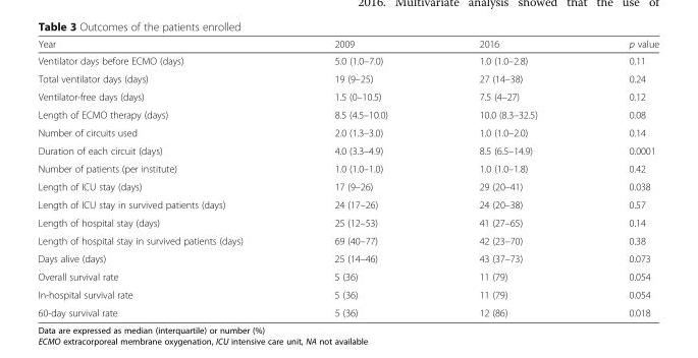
<table><thead><tr><td>Year</td><td>2009</td><td>2016</td><td>p value</td></tr></thead><tbody><tr><td>Ventilator days before ECMO (days)</td><td>5.0 (1.0–7.0)</td><td>1.0 (1.0–2.8)</td><td>0.11</td></tr><tr><td>Total ventilator days (days)</td><td>19 (9–25)</td><td>27 (14–38)</td><td>0.24</td></tr><tr><td>Ventilator-free days (days)</td><td>1.5 (0–10.5)</td><td>7.5 (4–27)</td><td>0.12</td></tr><tr><td>Length of ECMO therapy (days)</td><td>8.5 (4.5–10.0)</td><td>10.0 (8.3–32.5)</td><td>0.08</td></tr><tr><td>Number of circuits used</td><td>2.0 (1.3–3.0)</td><td>1.0 (1.0–2.0)</td><td>0.14</td></tr><tr><td>Duration of each circuit (days)</td><td>4.0 (3.3–4.9)</td><td>8.5 (6.5–14.9)</td><td>0.0001</td></tr><tr><td>Number of patients (per institute)</td><td>1.0 (1.0–1.0)</td><td>1.0 (1.0–1.8)</td><td>0.42</td></tr><tr><td>Length of ICU stay (days)</td><td>17 (9–26)</td><td>29 (20–41)</td><td>0.038</td></tr><tr><td>Length of ICU stay in survived patients (days)</td><td>24 (17–26)</td><td>24 (20–38)</td><td>0.57</td></tr><tr><td>Length of hospital stay (days)</td><td>25 (12–53)</td><td>41 (27–65)</td><td>0.14</td></tr><tr><td>Length of hospital stay in survived patients (days)</td><td>69 (40–77)</td><td>42 (23–70)</td><td>0.38</td></tr><tr><td>Days alive (days)</td><td>25 (14–46)</td><td>43 (37–73)</td><td>0.073</td></tr><tr><td>Overall survival rate</td><td>5 (36)</td><td>11 (79)</td><td>0.054</td></tr><tr><td>In-hospital survival rate</td><td>5 (36)</td><td>11 (79)</td><td>0.054</td></tr><tr><td>60-day survival rate</td><td>5 (36)</td><td>12 (86)</td><td>0.018</td></tr></tbody></table>